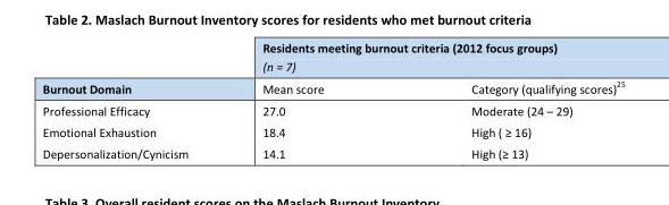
<table><thead><tr><td rowspan="2">Burnout Domain</td><td colspan="2">Residents meeting burnout criteria (2012 focus groups) (n = 7)</td></tr><tr><td>Mean score</td><td>Category (qualifying scores)<sup>25</sup></td></tr></thead><tbody><tr><td>Professional Efficacy</td><td>27.0</td><td>Moderate (24 – 29)</td></tr><tr><td>Emotional Exhaustion</td><td>18.4</td><td>High ( ≥ 16)</td></tr><tr><td>Depersonalization/Cynicism</td><td>14.1</td><td>High (≥ 13)</td></tr></tbody></table>